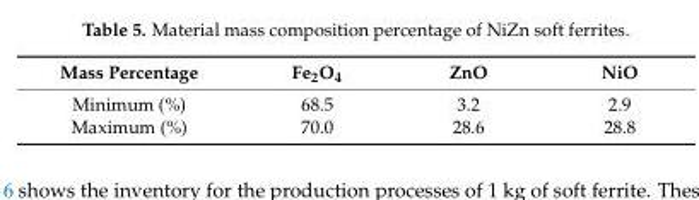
<table><thead><tr><td>Mass Percentage</td><td>Fe<sub>2</sub>O<sub>4</sub></td><td>ZnO</td><td>NiO</td></tr></thead><tbody><tr><td>Minimum (%)</td><td>68.5</td><td>3.2</td><td>2.9</td></tr><tr><td>Maximum (%)</td><td>70.0</td><td>28.6</td><td>28.8</td></tr></tbody></table>